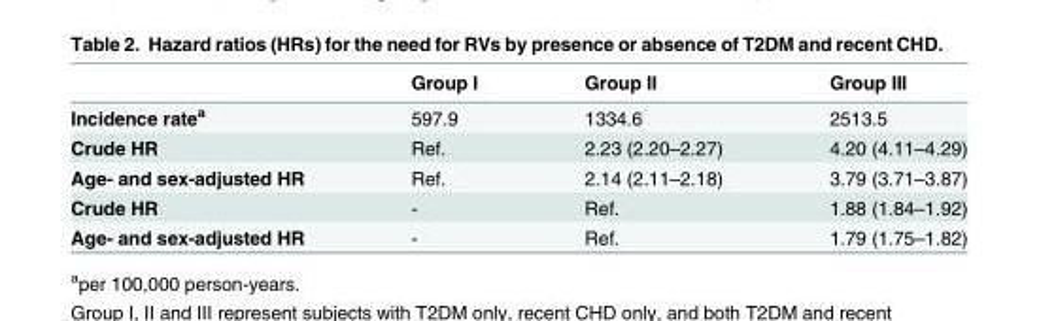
<table><thead><tr><td></td><td>Group I</td><td>Group II</td><td>Group III</td></tr></thead><tbody><tr><td>Incidence rate<sup>a</sup></td><td>597.9</td><td>1334.6</td><td>2513.5</td></tr><tr><td>Crude HR</td><td>Ref.</td><td>2.23 (2.20–2.27)</td><td>4.20 (4.11–4.29)</td></tr><tr><td>Age- and sex-adjusted HR</td><td>Ref.</td><td>2.14 (2.11–2.18)</td><td>3.79 (3.71–3.87)</td></tr><tr><td>Crude HR</td><td>-</td><td>Ref.</td><td>1.88 (1.84–1.92)</td></tr><tr><td>Age- and sex-adjusted HR</td><td>-</td><td>Ref.</td><td>1.79 (1.75–1.82)</td></tr></tbody></table>